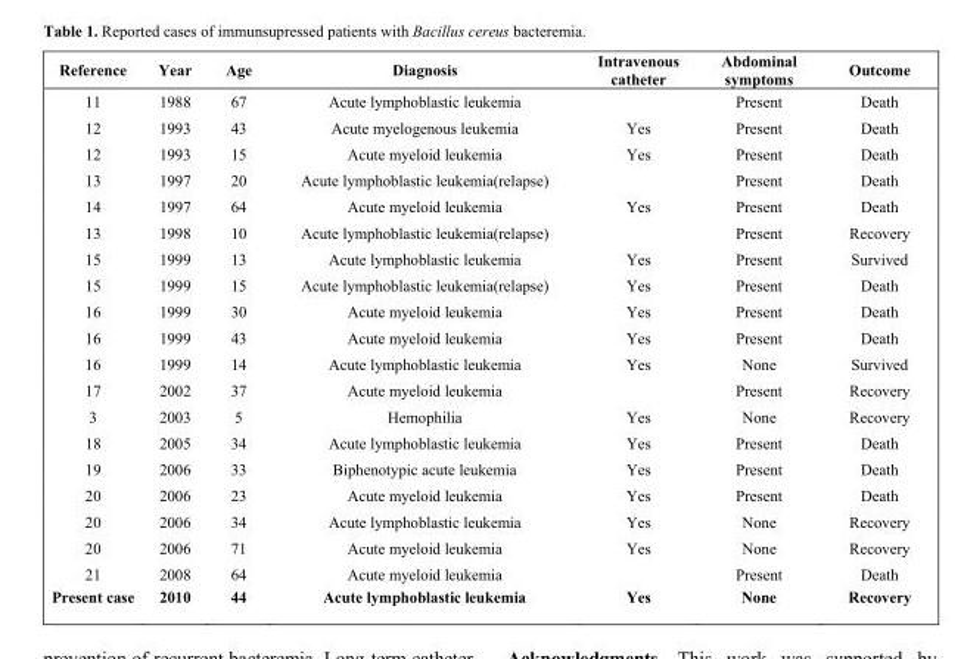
<table><thead><tr><td>Reference</td><td>Year</td><td>Age</td><td>Diagnosis</td><td>Intravenous catheter</td><td>Abdominal symptoms</td><td>Outcome</td></tr></thead><tbody><tr><td>11</td><td>1988</td><td>67</td><td>Acute lymphoblastic leukemia</td><td></td><td>Present</td><td>Death</td></tr><tr><td>12</td><td>1993</td><td>43</td><td>Acute myelogenous leukemia</td><td>Yes</td><td>Present</td><td>Death</td></tr><tr><td>12</td><td>1993</td><td>15</td><td>Acute myeloid leukemia</td><td>Yes</td><td>Present</td><td>Death</td></tr><tr><td>13</td><td>1997</td><td>20</td><td>Acute lymphoblastic leukemia(relapse)</td><td></td><td>Present</td><td>Death</td></tr><tr><td>14</td><td>1997</td><td>64</td><td>Acute myeloid leukemia</td><td>Yes</td><td>Present</td><td>Death</td></tr><tr><td>13</td><td>1998</td><td>10</td><td>Acute lymphoblastic leukemia(relapse)</td><td></td><td>Present</td><td>Recovery</td></tr><tr><td>15</td><td>1999</td><td>13</td><td>Acute lymphoblastic leukemia</td><td>Yes</td><td>Present</td><td>Survived</td></tr><tr><td>15</td><td>1999</td><td>15</td><td>Acute lymphoblastic leukemia(relapse)</td><td>Yes</td><td>Present</td><td>Death</td></tr><tr><td>16</td><td>1999</td><td>30</td><td>Acute myeloid leukemia</td><td>Yes</td><td>Present</td><td>Death</td></tr><tr><td>16</td><td>1999</td><td>43</td><td>Acute myeloid leukemia</td><td>Yes</td><td>Present</td><td>Death</td></tr><tr><td>16</td><td>1999</td><td>14</td><td>Acute lymphoblastic leukemia</td><td>Yes</td><td>None</td><td>Survived</td></tr><tr><td>17</td><td>2002</td><td>37</td><td>Acute myeloid leukemia</td><td></td><td>Present</td><td>Recovery</td></tr><tr><td>3</td><td>2003</td><td>5</td><td>Hemophilia</td><td>Yes</td><td>None</td><td>Recovery</td></tr><tr><td>18</td><td>2005</td><td>34</td><td>Acute lymphoblastic leukemia</td><td>Yes</td><td>Present</td><td>Death</td></tr><tr><td>19</td><td>2006</td><td>33</td><td>Biphenotypic acute leukemia</td><td>Yes</td><td>Present</td><td>Death</td></tr><tr><td>20</td><td>2006</td><td>23</td><td>Acute myeloid leukemia</td><td>Yes</td><td>Present</td><td>Death</td></tr><tr><td>20</td><td>2006</td><td>34</td><td>Acute lymphoblastic leukemia</td><td>Yes</td><td>None</td><td>Recovery</td></tr><tr><td>20</td><td>2006</td><td>71</td><td>Acute myeloid leukemia</td><td>Yes</td><td>None</td><td>Recovery</td></tr><tr><td>21</td><td>2008</td><td>64</td><td>Acute myeloid leukemia</td><td></td><td>Present</td><td>Death</td></tr><tr><td>Present case</td><td>2010</td><td>44</td><td>Acute lymphoblastic leukemia</td><td>Yes</td><td>None</td><td>Recovery</td></tr></tbody></table>